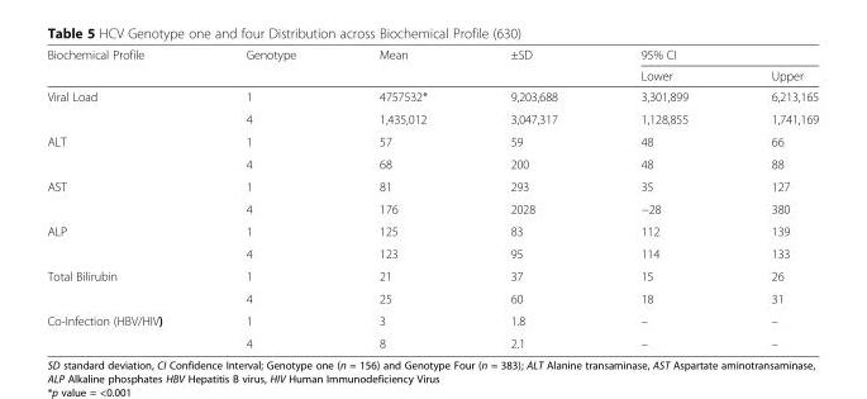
<table><thead><tr><td rowspan="2">Biochemical Profile</td><td rowspan="2">Genotype</td><td rowspan="2">Mean</td><td rowspan="2">±SD</td><td colspan="2">95% CI</td></tr><tr><td>Lower</td><td>Upper</td></tr></thead><tbody><tr><td rowspan="2">Viral Load</td><td>1</td><td>4757532*</td><td>9,203,688</td><td>3,301,899</td><td>6,213,165</td></tr><tr><td>4</td><td>1,435,012</td><td>3,047,317</td><td>1,128,855</td><td>1,741,169</td></tr><tr><td rowspan="2">ALT</td><td>1</td><td>57</td><td>59</td><td>48</td><td>66</td></tr><tr><td>4</td><td>68</td><td>200</td><td>48</td><td>88</td></tr><tr><td rowspan="2">AST</td><td>1</td><td>81</td><td>293</td><td>35</td><td>127</td></tr><tr><td>4</td><td>176</td><td>2028</td><td>−28</td><td>380</td></tr><tr><td rowspan="2">ALP</td><td>1</td><td>125</td><td>83</td><td>112</td><td>139</td></tr><tr><td>4</td><td>123</td><td>95</td><td>114</td><td>133</td></tr><tr><td rowspan="2">Total Bilirubin</td><td>1</td><td>21</td><td>37</td><td>15</td><td>26</td></tr><tr><td>4</td><td>25</td><td>60</td><td>18</td><td>31</td></tr><tr><td rowspan="2">Co-Infection (HBV/HIV)</td><td>1</td><td>3</td><td>1.8</td><td>–</td><td>–</td></tr><tr><td>4</td><td>8</td><td>2.1</td><td>–</td><td>–</td></tr></tbody></table>